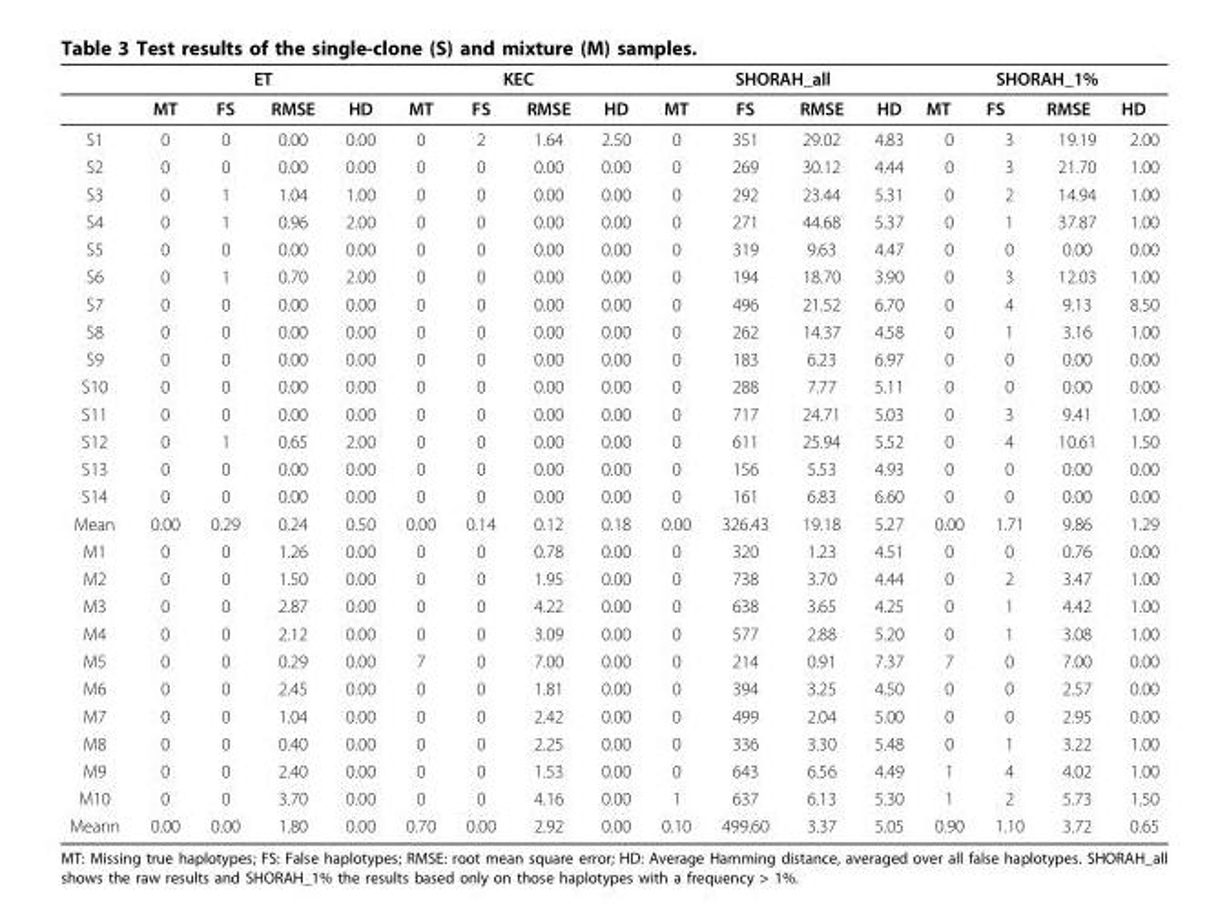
<table><thead><tr><td rowspan="2"></td><td colspan="4">ET</td><td colspan="4">KEC</td><td colspan="4">SHORAH_all</td><td colspan="4">SHORAH_1%</td></tr><tr><td>MT</td><td>FS</td><td>RMSE</td><td>HD</td><td>MT</td><td>FS</td><td>RMSE</td><td>HD</td><td>MT</td><td>FS</td><td>RMSE</td><td>HD</td><td>MT</td><td>FS</td><td>RMSE</td><td>HD</td></tr></thead><tbody><tr><td>S1</td><td>0</td><td>0</td><td>0.00</td><td>0.00</td><td>0</td><td>2</td><td>1.64</td><td>2.50</td><td>0</td><td>351</td><td>29.02</td><td>4.83</td><td>0</td><td>3</td><td>19.19</td><td>2.00</td></tr><tr><td>S2</td><td>0</td><td>0</td><td>0.00</td><td>0.00</td><td>0</td><td>0</td><td>0.00</td><td>0.00</td><td>0</td><td>269</td><td>30.12</td><td>4.44</td><td>0</td><td>3</td><td>21.70</td><td>1.00</td></tr><tr><td>S3</td><td>0</td><td>1</td><td>1.04</td><td>1.00</td><td>0</td><td>0</td><td>0.00</td><td>0.00</td><td>0</td><td>292</td><td>23.44</td><td>5.31</td><td>0</td><td>2</td><td>14.94</td><td>1.00</td></tr><tr><td>S4</td><td>0</td><td>1</td><td>0.96</td><td>2.00</td><td>0</td><td>0</td><td>0.00</td><td>0.00</td><td>0</td><td>271</td><td>44.68</td><td>5.37</td><td>0</td><td>1</td><td>37.87</td><td>1.00</td></tr><tr><td>S5</td><td>0</td><td>0</td><td>0.00</td><td>0.00</td><td>0</td><td>0</td><td>0.00</td><td>0.00</td><td>0</td><td>319</td><td>9.63</td><td>4.47</td><td>0</td><td>0</td><td>0.00</td><td>0.00</td></tr><tr><td>S6</td><td>0</td><td>1</td><td>0.70</td><td>2.00</td><td>0</td><td>0</td><td>0.00</td><td>0.00</td><td>0</td><td>194</td><td>18.70</td><td>3.90</td><td>0</td><td>3</td><td>12.03</td><td>1.00</td></tr><tr><td>S7</td><td>0</td><td>0</td><td>0.00</td><td>0.00</td><td>0</td><td>0</td><td>0.00</td><td>0.00</td><td>0</td><td>496</td><td>21.52</td><td>6.70</td><td>0</td><td>4</td><td>9.13</td><td>8.50</td></tr><tr><td>S8</td><td>0</td><td>0</td><td>0.00</td><td>0.00</td><td>0</td><td>0</td><td>0.00</td><td>0.00</td><td>0</td><td>262</td><td>14.37</td><td>4.58</td><td>0</td><td>1</td><td>3.16</td><td>1.00</td></tr><tr><td>S9</td><td>0</td><td>0</td><td>0.00</td><td>0.00</td><td>0</td><td>0</td><td>0.00</td><td>0.00</td><td>0</td><td>183</td><td>6.23</td><td>6.97</td><td>0</td><td>0</td><td>0.00</td><td>0.00</td></tr><tr><td>S10</td><td>0</td><td>0</td><td>0.00</td><td>0.00</td><td>0</td><td>0</td><td>0.00</td><td>0.00</td><td>0</td><td>288</td><td>7.77</td><td>5.11</td><td>0</td><td>0</td><td>0.00</td><td>0.00</td></tr><tr><td>S11</td><td>0</td><td>0</td><td>0.00</td><td>0.00</td><td>0</td><td>0</td><td>0.00</td><td>0.00</td><td>0</td><td>717</td><td>24.71</td><td>5.03</td><td>0</td><td>3</td><td>9.41</td><td>1.00</td></tr><tr><td>S12</td><td>0</td><td>1</td><td>0.65</td><td>2.00</td><td>0</td><td>0</td><td>0.00</td><td>0.00</td><td>0</td><td>611</td><td>25.94</td><td>5.52</td><td>0</td><td>4</td><td>10.61</td><td>1.50</td></tr><tr><td>S13</td><td>0</td><td>0</td><td>0.00</td><td>0.00</td><td>0</td><td>0</td><td>0.00</td><td>0.00</td><td>0</td><td>156</td><td>5.53</td><td>4.93</td><td>0</td><td>0</td><td>0.00</td><td>0.00</td></tr><tr><td>S14</td><td>0</td><td>0</td><td>0.00</td><td>0.00</td><td>0</td><td>0</td><td>0.00</td><td>0.00</td><td>0</td><td>161</td><td>6.83</td><td>6.60</td><td>0</td><td>0</td><td>0.00</td><td>0.00</td></tr><tr><td>Mean</td><td>0.00</td><td>0.29</td><td>0.24</td><td>0.50</td><td>0.00</td><td>0.14</td><td>0.12</td><td>0.18</td><td>0.00</td><td>326.43</td><td>19.18</td><td>5.27</td><td>0.00</td><td>1.71</td><td>9.86</td><td>1.29</td></tr><tr><td>M1</td><td>0</td><td>0</td><td>1.26</td><td>0.00</td><td>0</td><td>0</td><td>0.78</td><td>0.00</td><td>0</td><td>320</td><td>1.23</td><td>4.51</td><td>0</td><td>0</td><td>0.76</td><td>0.00</td></tr><tr><td>M2</td><td>0</td><td>0</td><td>1.50</td><td>0.00</td><td>0</td><td>0</td><td>1.95</td><td>0.00</td><td>0</td><td>738</td><td>3.70</td><td>4.44</td><td>0</td><td>2</td><td>3.47</td><td>1.00</td></tr><tr><td>M3</td><td>0</td><td>0</td><td>2.87</td><td>0.00</td><td>0</td><td>0</td><td>4.22</td><td>0.00</td><td>0</td><td>638</td><td>3.65</td><td>4.25</td><td>0</td><td>1</td><td>4.42</td><td>1.00</td></tr><tr><td>M4</td><td>0</td><td>0</td><td>2.12</td><td>0.00</td><td>0</td><td>0</td><td>3.09</td><td>0.00</td><td>0</td><td>577</td><td>2.88</td><td>5.20</td><td>0</td><td>1</td><td>3.08</td><td>1.00</td></tr><tr><td>M5</td><td>0</td><td>0</td><td>0.29</td><td>0.00</td><td>7</td><td>0</td><td>7.00</td><td>0.00</td><td>0</td><td>214</td><td>0.91</td><td>7.37</td><td>7</td><td>0</td><td>7.00</td><td>0.00</td></tr><tr><td>M6</td><td>0</td><td>0</td><td>2.45</td><td>0.00</td><td>0</td><td>0</td><td>1.81</td><td>0.00</td><td>0</td><td>394</td><td>3.25</td><td>4.50</td><td>0</td><td>0</td><td>2.57</td><td>0.00</td></tr><tr><td>M7</td><td>0</td><td>0</td><td>1.04</td><td>0.00</td><td>0</td><td>0</td><td>2.42</td><td>0.00</td><td>0</td><td>499</td><td>2.04</td><td>5.00</td><td>0</td><td>0</td><td>2.95</td><td>0.00</td></tr><tr><td>M8</td><td>0</td><td>0</td><td>0.40</td><td>0.00</td><td>0</td><td>0</td><td>2.25</td><td>0.00</td><td>0</td><td>336</td><td>3.30</td><td>5.48</td><td>0</td><td>1</td><td>3.22</td><td>1.00</td></tr><tr><td>M9</td><td>0</td><td>0</td><td>2.40</td><td>0.00</td><td>0</td><td>0</td><td>1.53</td><td>0.00</td><td>0</td><td>643</td><td>6.56</td><td>4.49</td><td>1</td><td>4</td><td>4.02</td><td>1.00</td></tr><tr><td>M10</td><td>0</td><td>0</td><td>3.70</td><td>0.00</td><td>0</td><td>0</td><td>4.16</td><td>0.00</td><td>1</td><td>637</td><td>6.13</td><td>5.30</td><td>1</td><td>2</td><td>5.73</td><td>1.50</td></tr><tr><td>Meann</td><td>0.00</td><td>0.00</td><td>1.80</td><td>0.00</td><td>0.70</td><td>0.00</td><td>2.92</td><td>0.00</td><td>0.10</td><td>499.60</td><td>3.37</td><td>5.05</td><td>0.90</td><td>1.10</td><td>3.72</td><td>0.65</td></tr></tbody></table>